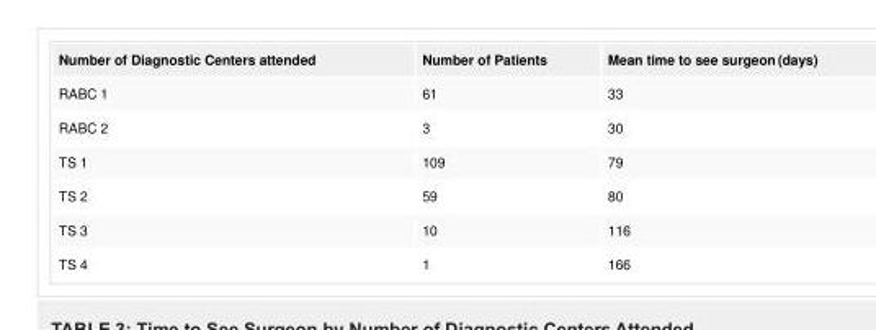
<table><tbody><tr><td>Number of Diagnostic Centers attended</td><td>Number of Patients</td><td>Mean time to see surgeon (days)</td></tr><tr><td>RABC 1</td><td>61</td><td>33</td></tr><tr><td>RABC 2</td><td>3</td><td>30</td></tr><tr><td>TS 1</td><td>109</td><td>79</td></tr><tr><td>TS 2</td><td>59</td><td>80</td></tr><tr><td>TS 3</td><td>10</td><td>116</td></tr><tr><td>TS 4</td><td>1</td><td>166</td></tr></tbody></table>